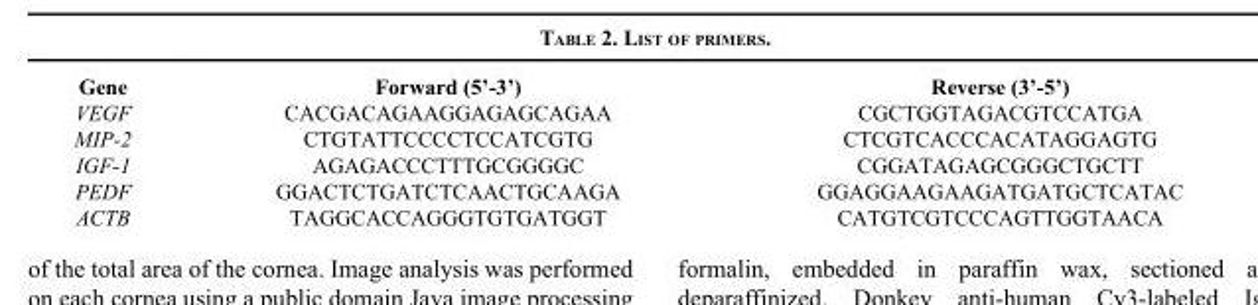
<table><thead><tr><td>Gene</td><td>Forward (5’-3’)</td><td>Reverse (3’-5’)</td></tr></thead><tbody><tr><td>VEGF</td><td>CACGACAGAAGGAGAGCAGAA</td><td>CGCTGGTAGACGTCCATGA</td></tr><tr><td>MIP-2</td><td>CTGTATTCCCCTCCATCGTG</td><td>CTCGTCACCCACATAGGAGTG</td></tr><tr><td>IGF-1</td><td>AGAGACCCTTTGCGGGGC</td><td>CGGATAGAGCGGGCTGCTT</td></tr><tr><td>PEDF</td><td>GGACTCTGATCTCAACTGCAAGA</td><td>GGAGGAAGAAGATGATGCTCATAC</td></tr><tr><td>ACTB</td><td>TAGGCACCAGGGTGTGATGGT</td><td>CATGTCGTCCCAGTTGGTAACA</td></tr></tbody></table>